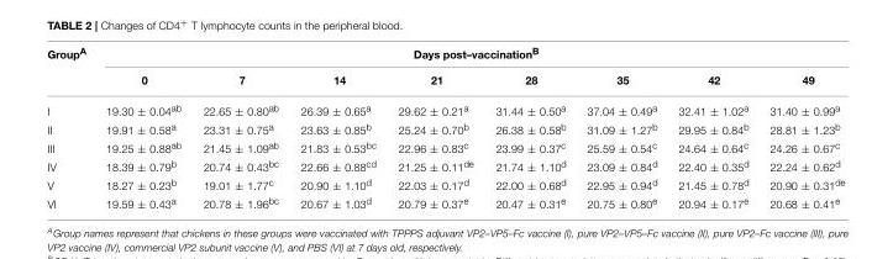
<table><thead><tr><td rowspan="2">Group<sup>A</sup></td><td colspan="8">Days post–vaccination<sup>B</sup></td></tr><tr><td>0</td><td>7</td><td>14</td><td>21</td><td>28</td><td>35</td><td>42</td><td>49</td></tr></thead><tbody><tr><td>I</td><td>19.30 ± 0.04<sup>ab</sup></td><td>22.65 ± 0.80<sup>ab</sup></td><td>26.39 ± 0.65<sup>a</sup></td><td>29.62 ± 0.21<sup>a</sup></td><td>31.44 ± 0.50<sup>a</sup></td><td>37.04 ± 0.49<sup>a</sup></td><td>32.41 ± 1.02<sup>a</sup></td><td>31.40 ± 0.99<sup>a</sup></td></tr><tr><td>II</td><td>19.91 ± 0.58<sup>a</sup></td><td>23.31 ± 0.75<sup>a</sup></td><td>23.63 ± 0.85<sup>b</sup></td><td>25.24 ± 0.70<sup>b</sup></td><td>26.38 ± 0.58<sup>b</sup></td><td>31.09 ± 1.27<sup>b</sup></td><td>29.95 ± 0.84<sup>b</sup></td><td>28.81 ± 1.23<sup>b</sup></td></tr><tr><td>III</td><td>19.25 ± 0.88<sup>ab</sup></td><td>21.45 ± 1.09<sup>ab</sup></td><td>21.83 ± 0.53<sup>bc</sup></td><td>22.96 ± 0.83<sup>c</sup></td><td>23.99 ± 0.37<sup>c</sup></td><td>25.59 ± 0.54<sup>c</sup></td><td>24.64 ± 0.64<sup>c</sup></td><td>24.26 ± 0.67<sup>c</sup></td></tr><tr><td>IV</td><td>18.39 ± 0.79<sup>b</sup></td><td>20.74 ± 0.43<sup>bc</sup></td><td>22.66 ± 0.88<sup>cd</sup></td><td>21.25 ± 0.11<sup>de</sup></td><td>21.74 ± 1.10<sup>d</sup></td><td>23.09 ± 0.84<sup>d</sup></td><td>22.40 ± 0.35<sup>d</sup></td><td>22.24 ± 0.62<sup>d</sup></td></tr><tr><td>V</td><td>18.27 ± 0.23<sup>b</sup></td><td>19.01 ± 1.77<sup>c</sup></td><td>20.90 ± 1.10<sup>d</sup></td><td>22.03 ± 0.17<sup>d</sup></td><td>22.00 ± 0.68<sup>d</sup></td><td>22.95 ± 0.94<sup>d</sup></td><td>21.45 ± 0.78<sup>d</sup></td><td>20.90 ± 0.31<sup>de</sup></td></tr><tr><td>VI</td><td>19.59 ± 0.43<sup>a</sup></td><td>20.78 ± 1.96<sup>bc</sup></td><td>20.67 ± 1.03<sup>d</sup></td><td>20.79 ± 0.37<sup>e</sup></td><td>20.47 ± 0.31<sup>e</sup></td><td>20.75 ± 0.80<sup>e</sup></td><td>20.94 ± 0.17<sup>e</sup></td><td>20.68 ± 0.41<sup>e</sup></td></tr></tbody></table>